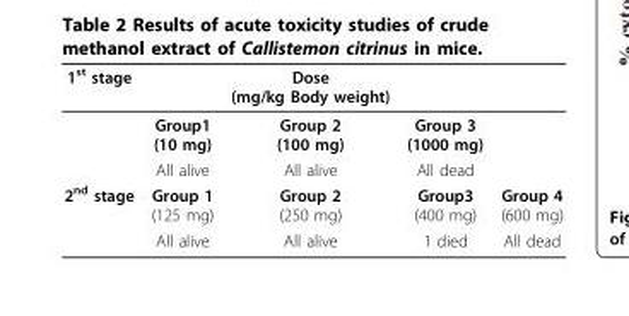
<table><thead><tr><td>1<sup>st</sup> stage</td><td></td><td>Dose (mg/kg Body weight)</td><td></td><td></td></tr></thead><tbody><tr><td></td><td>Group1 (10 mg)</td><td>Group 2 (100 mg)</td><td>Group 3 (1000 mg)</td><td></td></tr><tr><td></td><td>All alive</td><td>All alive</td><td>All dead</td><td></td></tr><tr><td rowspan="2">2<sup>nd</sup> stage</td><td>Group 1 (125 mg)</td><td>Group 2 (250 mg)</td><td>Group3 (400 mg)</td><td>Group 4 (600 mg)</td></tr><tr><td>All alive</td><td>All alive</td><td>1 died</td><td>All dead</td></tr></tbody></table>